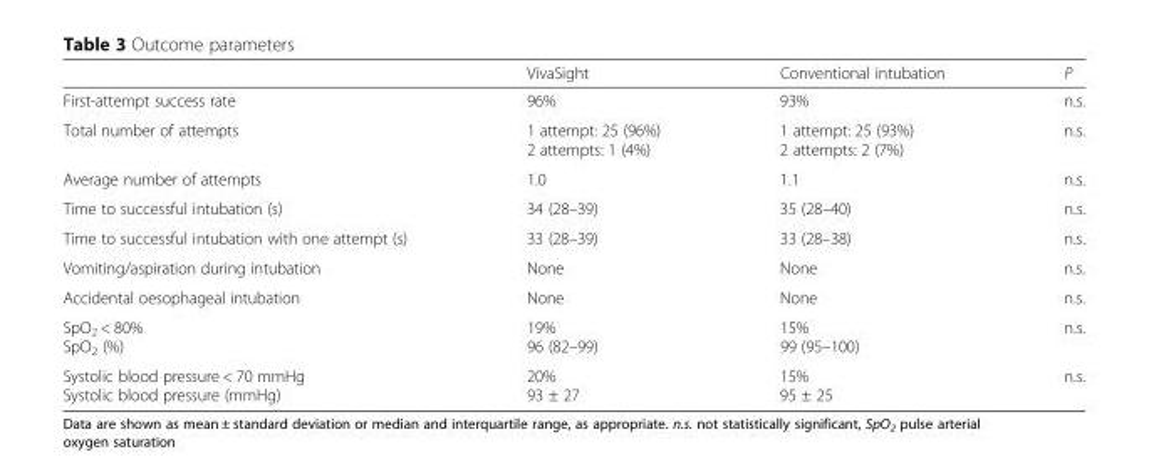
<table><thead><tr><td></td><td>VivaSight</td><td>Conventional intubation</td><td>P</td></tr></thead><tbody><tr><td>First-attempt success rate</td><td>96%</td><td>93%</td><td>n.s.</td></tr><tr><td>Total number of attempts</td><td>1 attempt: 25 (96%) 2 attempts: 1 (4%)</td><td>1 attempt: 25 (93%) 2 attempts: 2 (7%)</td><td>n.s.</td></tr><tr><td>Average number of attempts</td><td>1.0</td><td>1.1</td><td>n.s.</td></tr><tr><td>Time to successful intubation (s)</td><td>34 (28–39)</td><td>35 (28–40)</td><td>n.s.</td></tr><tr><td>Time to successful intubation with one attempt (s)</td><td>33 (28–39)</td><td>33 (28–38)</td><td>n.s.</td></tr><tr><td>Vomiting/aspiration during intubation</td><td>None</td><td>None</td><td>n.s.</td></tr><tr><td>Accidental oesophageal intubation</td><td>None</td><td>None</td><td>n.s.</td></tr><tr><td>SpO<sub>2</sub> &lt; 80% SpO<sub>2</sub> (%)</td><td>19% 96 (82–99)</td><td>15% 99 (95–100)</td><td>n.s.</td></tr><tr><td>Systolic blood pressure &lt; 70 mmHg Systolic blood pressure (mmHg)</td><td>20% 93 ± 27</td><td>15% 95 ± 25</td><td>n.s.</td></tr></tbody></table>